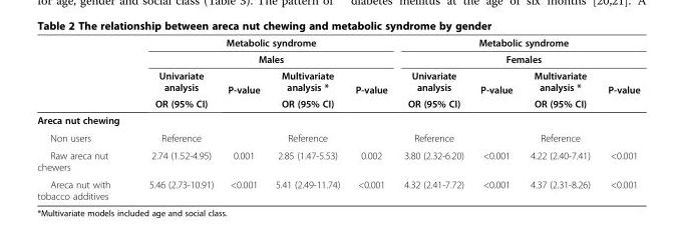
<table><thead><tr><td rowspan="4"></td><td rowspan="2" colspan="4">Metabolic syndrome Males</td><td rowspan="2" colspan="4">Metabolic syndrome Females</td></tr><tr></tr><tr><td rowspan="2">Univariate analysis OR (95% CI)</td><td rowspan="2">P-value</td><td rowspan="2">Multivariate analysis * OR (95% CI)</td><td rowspan="2">P-value</td><td rowspan="2">Univariate analysis OR (95% CI)</td><td rowspan="2">P-value</td><td rowspan="2">Multivariate analysis * OR (95% CI)</td><td rowspan="2">P-value</td></tr><tr></tr></thead><tbody><tr><td colspan="9">Areca nut chewing</td></tr><tr><td>Non users</td><td>Reference</td><td></td><td>Reference</td><td></td><td>Reference</td><td></td><td>Reference</td><td></td></tr><tr><td>Raw areca nut chewers</td><td>2.74 (1.52-4.95)</td><td>0.001</td><td>2.85 (1.47-5.53)</td><td>0.002</td><td>3.80 (2.32-6.20)</td><td>&lt;0.001</td><td>4.22 (2.40-7.41)</td><td>&lt;0.001</td></tr><tr><td>Areca nut with tobacco additives</td><td>5.46 (2.73-10.91)</td><td>&lt;0.001</td><td>5.41 (2.49-11.74)</td><td>&lt;0.001</td><td>4.32 (2.41-7.72)</td><td>&lt;0.001</td><td>4.37 (2.31-8.26)</td><td>&lt;0.001</td></tr></tbody></table>